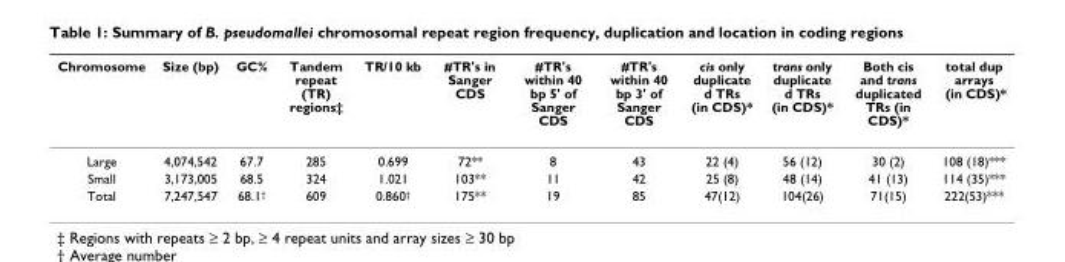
<table><thead><tr><td>Chromosome</td><td>Size (bp)</td><td>GC%</td><td>Tandem repeat (TR) regions‡</td><td>TR/10 kb</td><td>#TR&#x27;s in Sanger CDS</td><td>#TR&#x27;s within 40 bp 5&#x27; of Sanger CDS</td><td>#TR&#x27;s within 40 bp 3&#x27; of Sanger CDS</td><td>cis only duplicate d TRs (in CDS)*</td><td>trans only duplicate d TRs (in CDS)*</td><td>Both cis and trans duplicated TRs (in CDS)*</td><td>total dup arrays (in CDS)*</td></tr></thead><tbody><tr><td>Large</td><td>4,074,542</td><td>67.7</td><td>285</td><td>0.699</td><td>72**</td><td>8</td><td>43</td><td>22 (4)</td><td>56 (12)</td><td>30 (2)</td><td>108 (18)***</td></tr><tr><td>Small</td><td>3,173,005</td><td>68.5</td><td>324</td><td>1.021</td><td>103**</td><td>11</td><td>42</td><td>25 (8)</td><td>48 (14)</td><td>41 (13)</td><td>114 (35)***</td></tr><tr><td>Total</td><td>7,247,547</td><td>68.1†</td><td>609</td><td>0.860†</td><td>175**</td><td>19</td><td>85</td><td>47(12)</td><td>104(26)</td><td>71(15)</td><td>222(53)***</td></tr></tbody></table>